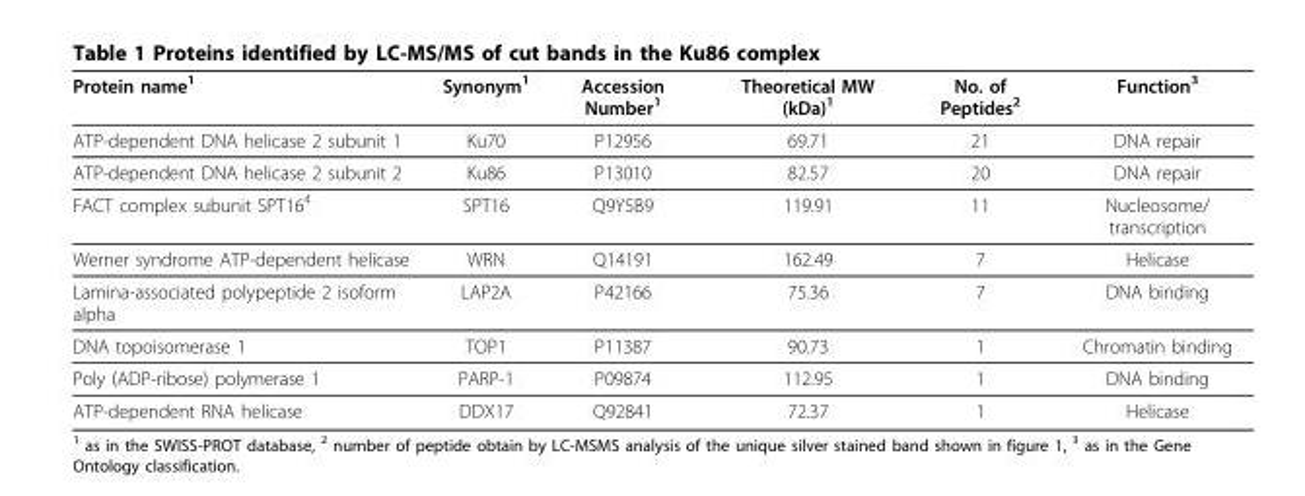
<table><thead><tr><td>Protein name<sup>1</sup></td><td>Synonym<sup>1</sup></td><td>Accession Number<sup>1</sup></td><td>Theoretical MW (kDa)<sup>1</sup></td><td>No. of Peptides<sup>2</sup></td><td>Function<sup>3</sup></td></tr></thead><tbody><tr><td>ATP-dependent DNA helicase 2 subunit 1</td><td>Ku70</td><td>P12956</td><td>69.71</td><td>21</td><td>DNA repair</td></tr><tr><td>ATP-dependent DNA helicase 2 subunit 2</td><td>Ku86</td><td>P13010</td><td>82.57</td><td>20</td><td>DNA repair</td></tr><tr><td>FACT complex subunit SPT16<sup>4</sup></td><td>SPT16</td><td>Q9Y5B9</td><td>119.91</td><td>11</td><td>Nucleosome/ transcription</td></tr><tr><td>Werner syndrome ATP-dependent helicase</td><td>WRN</td><td>Q14191</td><td>162.49</td><td>7</td><td>Helicase</td></tr><tr><td>Lamina-associated polypeptide 2 isoform alpha</td><td>LAP2A</td><td>P42166</td><td>75.36</td><td>7</td><td>DNA binding</td></tr><tr><td>DNA topoisomerase 1</td><td>TOP1</td><td>P11387</td><td>90.73</td><td>1</td><td>Chromatin binding</td></tr><tr><td>Poly (ADP-ribose) polymerase 1</td><td>PARP-1</td><td>P09874</td><td>112.95</td><td>1</td><td>DNA binding</td></tr><tr><td>ATP-dependent RNA helicase</td><td>DDX17</td><td>Q92841</td><td>72.37</td><td>1</td><td>Helicase</td></tr></tbody></table>